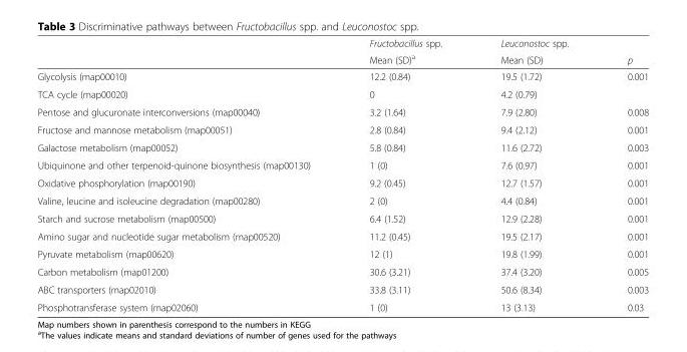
<table><thead><tr><td rowspan="2"></td><td rowspan="2">Fructobacillus spp. Mean (SD)<sup>a</sup></td><td rowspan="2">Leuconostoc spp. Mean (SD)</td><td rowspan="2">p</td></tr><tr></tr></thead><tbody><tr><td>Glycolysis (map00010)</td><td>12.2 (0.84)</td><td>19.5 (1.72)</td><td>0.001</td></tr><tr><td>TCA cycle (map00020)</td><td>0</td><td>4.2 (0.79)</td><td></td></tr><tr><td>Pentose and glucuronate interconversions (map00040)</td><td>3.2 (1.64)</td><td>7.9 (2.80)</td><td>0.008</td></tr><tr><td>Fructose and mannose metabolism (map00051)</td><td>2.8 (0.84)</td><td>9.4 (2.12)</td><td>0.001</td></tr><tr><td>Galactose metabolism (map00052)</td><td>5.8 (0.84)</td><td>11.6 (2.72)</td><td>0.003</td></tr><tr><td>Ubiquinone and other terpenoid-quinone biosynthesis (map00130)</td><td>1 (0)</td><td>7.6 (0.97)</td><td>0.001</td></tr><tr><td>Oxidative phosphorylation (map00190)</td><td>9.2 (0.45)</td><td>12.7 (1.57)</td><td>0.001</td></tr><tr><td>Valine, leucine and isoleucine degradation (map00280)</td><td>2 (0)</td><td>4.4 (0.84)</td><td>0.001</td></tr><tr><td>Starch and sucrose metabolism (map00500)</td><td>6.4 (1.52)</td><td>12.9 (2.28)</td><td>0.001</td></tr><tr><td>Amino sugar and nucleotide sugar metabolism (map00520)</td><td>11.2 (0.45)</td><td>19.5 (2.17)</td><td>0.001</td></tr><tr><td>Pyruvate metabolism (map00620)</td><td>12 (1)</td><td>19.8 (1.99)</td><td>0.001</td></tr><tr><td>Carbon metabolism (map01200)</td><td>30.6 (3.21)</td><td>37.4 (3.20)</td><td>0.005</td></tr><tr><td>ABC transporters (map02010)</td><td>33.8 (3.11)</td><td>50.6 (8.34)</td><td>0.003</td></tr><tr><td>Phosphotransferase system (map02060)</td><td>1 (0)</td><td>13 (3.13)</td><td>0.03</td></tr></tbody></table>